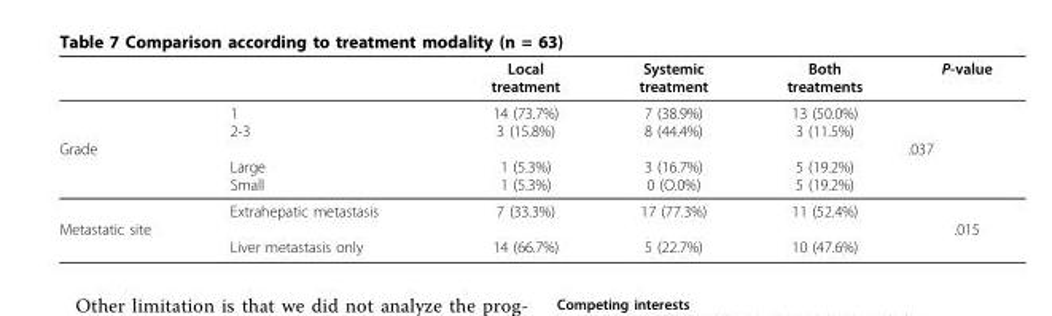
<table><thead><tr><td></td><td></td><td>Local treatment</td><td>Systemic treatment</td><td>Both treatments</td><td>P-value</td></tr></thead><tbody><tr><td>Grade</td><td>1 2-3 Large Small</td><td>14 (73.7%) 3 (15.8%) 1 (5.3%) 1 (5.3%)</td><td>7 (38.9%) 8 (44.4%) 3 (16.7%) 0 (O.0%)</td><td>13 (50.0%) 3 (11.5%) 5 (19.2%) 5 (19.2%)</td><td>.037</td></tr><tr><td>Metastatic site</td><td>Extrahepatic metastasis Liver metastasis only</td><td>7 (33.3%) 14 (66.7%)</td><td>17 (77.3%) 5 (22.7%)</td><td>11 (52.4%) 10 (47.6%)</td><td>.015</td></tr></tbody></table>